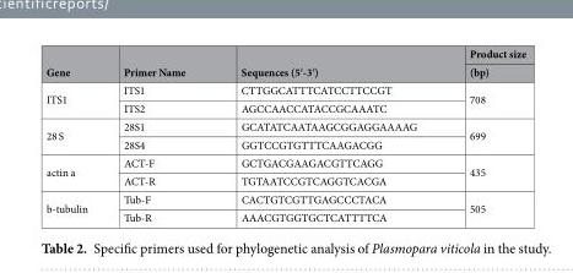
<table><thead><tr><td rowspan="2">Gene</td><td rowspan="2">Primer Name</td><td rowspan="2">Sequences (5′-3′)</td><td rowspan="2">Product size (bp)</td></tr><tr></tr></thead><tbody><tr><td rowspan="2">ITS1</td><td>ITS1</td><td>CTTGGCATTTCATCCTTCCGT</td><td rowspan="2">708</td></tr><tr><td>ITS2</td><td>AGCCAACCATACCGCAAATC</td></tr><tr><td rowspan="2">28 S</td><td>28S1</td><td>GCATATCAATAAGCGGAGGAAAAG</td><td rowspan="2">699</td></tr><tr><td>28S4</td><td>GGTCCGTGTTTCAAGACGG</td></tr><tr><td rowspan="2">actin a</td><td>ACT-F</td><td>GCTGACGAAGACGTTCAGG</td><td rowspan="2">435</td></tr><tr><td>ACT-R</td><td>TGTAATCCGTCAGGTCACGA</td></tr><tr><td rowspan="2">b-tubulin</td><td>Tub-F</td><td>CACTGTCGTTGAGCCCTACA</td><td rowspan="2">505</td></tr><tr><td>Tub-R</td><td>AAACGTGGTGCTCATTTTCA</td></tr></tbody></table>